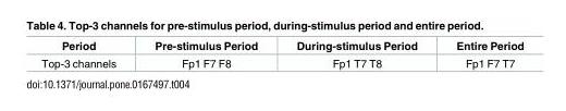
<table><thead><tr><td>Period</td><td>Pre-stimulus Period</td><td>During-stimulus Period</td><td>Entire Period</td></tr></thead><tbody><tr><td>Top-3 channels</td><td>Fp1 F7 F8</td><td>Fp1 T7 T8</td><td>Fp1 F7 T7</td></tr></tbody></table>